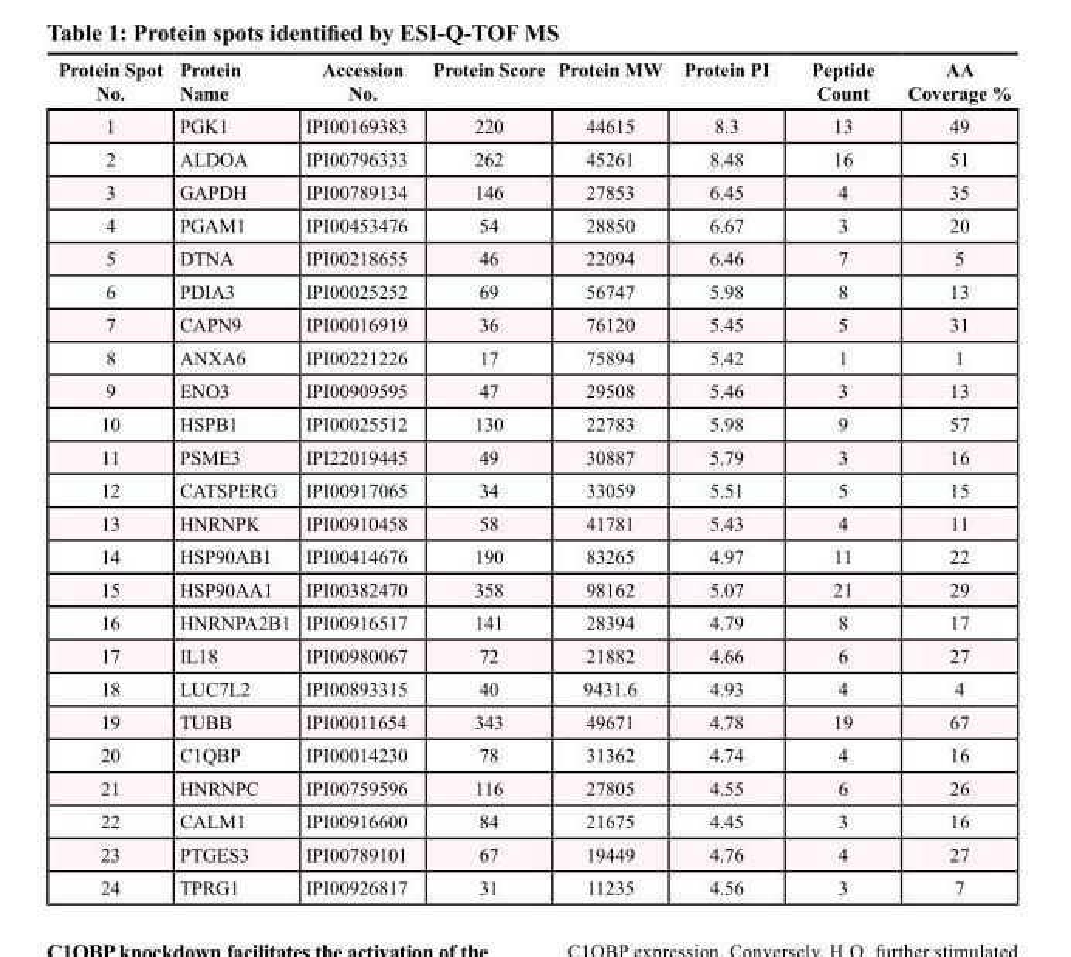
<table><thead><tr><td>Protein Spot No.</td><td>Protein Name</td><td>Accession No.</td><td>Protein Score</td><td>Protein MW</td><td>Protein PI</td><td>Peptide Count</td><td>AA Coverage %</td></tr></thead><tbody><tr><td>1</td><td>PGK1</td><td>IPI00169383</td><td>220</td><td>44615</td><td>8.3</td><td>13</td><td>49</td></tr><tr><td>2</td><td>ALDOA</td><td>IPI00796333</td><td>262</td><td>45261</td><td>8.48</td><td>16</td><td>51</td></tr><tr><td>3</td><td>GAPDH</td><td>IPI00789134</td><td>146</td><td>27853</td><td>6.45</td><td>4</td><td>35</td></tr><tr><td>4</td><td>PGAM1</td><td>IPI00453476</td><td>54</td><td>28850</td><td>6.67</td><td>3</td><td>20</td></tr><tr><td>5</td><td>DTNA</td><td>IPI00218655</td><td>46</td><td>22094</td><td>6.46</td><td>7</td><td>5</td></tr><tr><td>6</td><td>PDIA3</td><td>IPI00025252</td><td>69</td><td>56747</td><td>5.98</td><td>8</td><td>13</td></tr><tr><td>7</td><td>CAPN9</td><td>IPI00016919</td><td>36</td><td>76120</td><td>5.45</td><td>5</td><td>31</td></tr><tr><td>8</td><td>ANXA6</td><td>IPI00221226</td><td>17</td><td>75894</td><td>5.42</td><td>1</td><td>1</td></tr><tr><td>9</td><td>ENO3</td><td>IPI00909595</td><td>47</td><td>29508</td><td>5.46</td><td>3</td><td>13</td></tr><tr><td>10</td><td>HSPB1</td><td>IPI00025512</td><td>130</td><td>22783</td><td>5.98</td><td>9</td><td>57</td></tr><tr><td>11</td><td>PSME3</td><td>IPI22019445</td><td>49</td><td>30887</td><td>5.79</td><td>3</td><td>16</td></tr><tr><td>12</td><td>CATSPERG</td><td>IPI00917065</td><td>34</td><td>33059</td><td>5.51</td><td>5</td><td>15</td></tr><tr><td>13</td><td>HNRNPK</td><td>IPI00910458</td><td>58</td><td>41781</td><td>5.43</td><td>4</td><td>11</td></tr><tr><td>14</td><td>HSP90AB1</td><td>IPI00414676</td><td>190</td><td>83265</td><td>4.97</td><td>11</td><td>22</td></tr><tr><td>15</td><td>HSP90AA1</td><td>IPI00382470</td><td>358</td><td>98162</td><td>5.07</td><td>21</td><td>29</td></tr><tr><td>16</td><td>HNRNPA2B1</td><td>IPI00916517</td><td>141</td><td>28394</td><td>4.79</td><td>8</td><td>17</td></tr><tr><td>17</td><td>IL18</td><td>IPI00980067</td><td>72</td><td>21882</td><td>4.66</td><td>6</td><td>27</td></tr><tr><td>18</td><td>LUC7L2</td><td>IPI00893315</td><td>40</td><td>9431.6</td><td>4.93</td><td>4</td><td>4</td></tr><tr><td>19</td><td>TUBB</td><td>IPI00011654</td><td>343</td><td>49671</td><td>4.78</td><td>19</td><td>67</td></tr><tr><td>20</td><td>C1QBP</td><td>IPI00014230</td><td>78</td><td>31362</td><td>4.74</td><td>4</td><td>16</td></tr><tr><td>21</td><td>HNRNPC</td><td>IPI00759596</td><td>116</td><td>27805</td><td>4.55</td><td>6</td><td>26</td></tr><tr><td>22</td><td>CALM1</td><td>IPI00916600</td><td>84</td><td>21675</td><td>4.45</td><td>3</td><td>16</td></tr><tr><td>23</td><td>PTGES3</td><td>IPI00789101</td><td>67</td><td>19449</td><td>4.76</td><td>4</td><td>27</td></tr><tr><td>24</td><td>TPRG1</td><td>IPI00926817</td><td>31</td><td>11235</td><td>4.56</td><td>3</td><td>7</td></tr></tbody></table>